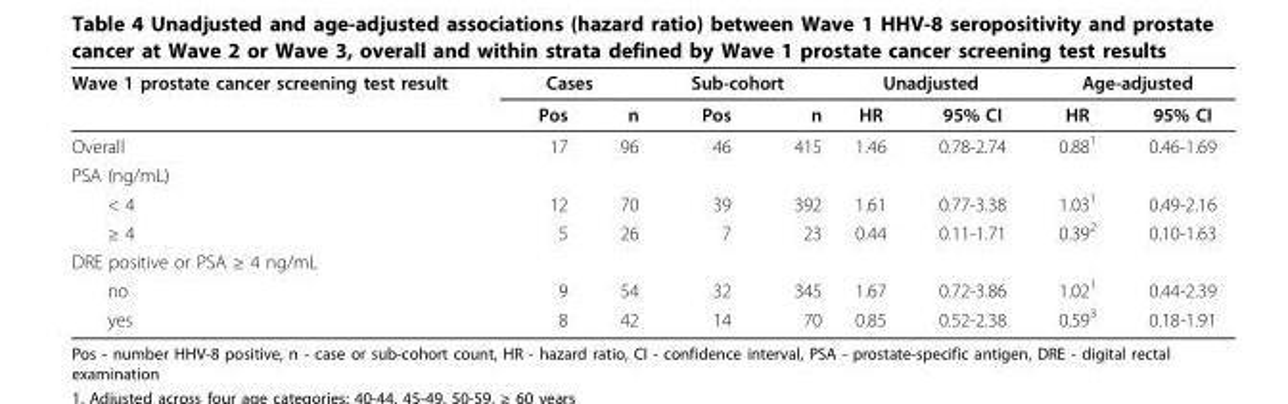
<table><thead><tr><td rowspan="2">Wave 1 prostate cancer screening test result</td><td colspan="2">Cases</td><td colspan="2">Sub-cohort</td><td colspan="2">Unadjusted</td><td colspan="2">Age-adjusted</td></tr><tr><td>Pos</td><td>n</td><td>Pos</td><td>n</td><td>HR</td><td>95% CI</td><td>HR</td><td>95% CI</td></tr></thead><tbody><tr><td>Overall</td><td>17</td><td>96</td><td>46</td><td>415</td><td>1.46</td><td>0.78-2.74</td><td>0.88<sup>1</sup></td><td>0.46-1.69</td></tr><tr><td colspan="9">PSA (ng/mL)</td></tr><tr><td>&lt; 4</td><td>12</td><td>70</td><td>39</td><td>392</td><td>1.61</td><td>0.77-3.38</td><td>1.03<sup>1</sup></td><td>0.49-2.16</td></tr><tr><td>≥ 4</td><td>5</td><td>26</td><td>7</td><td>23</td><td>0.44</td><td>0.11-1.71</td><td>0.39<sup>2</sup></td><td>0.10-1.63</td></tr><tr><td colspan="9">DRE positive or PSA ≥ 4 ng/mL</td></tr><tr><td>no</td><td>9</td><td>54</td><td>32</td><td>345</td><td>1.67</td><td>0.72-3.86</td><td>1.02<sup>1</sup></td><td>0.44-2.39</td></tr><tr><td>yes</td><td>8</td><td>42</td><td>14</td><td>70</td><td>0.85</td><td>0.52-2.38</td><td>0.59<sup>3</sup></td><td>0.18-1.91</td></tr></tbody></table>